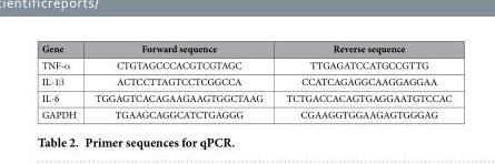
<table><thead><tr><td>Gene</td><td>Forward sequence</td><td>Reverse sequence</td></tr></thead><tbody><tr><td>TNF-α</td><td>CTGTAGCCCACGTCGTAGC</td><td>TTGAGATCCATGCCGTTG</td></tr><tr><td>IL-1β</td><td>ACTCCTTAGTCCTCGGCCA</td><td>CCATCAGAGGCAAGGAGGAA</td></tr><tr><td>IL-6</td><td>TGGAGTCACAGAAGAAGTGGCTAAG</td><td>TCTGACCACAGTGAGGAATGTCCAC</td></tr><tr><td>GAPDH</td><td>TGAAGCAGGCATCTGAGGG</td><td>CGAAGGTGGAAGAGTGGGAG</td></tr></tbody></table>